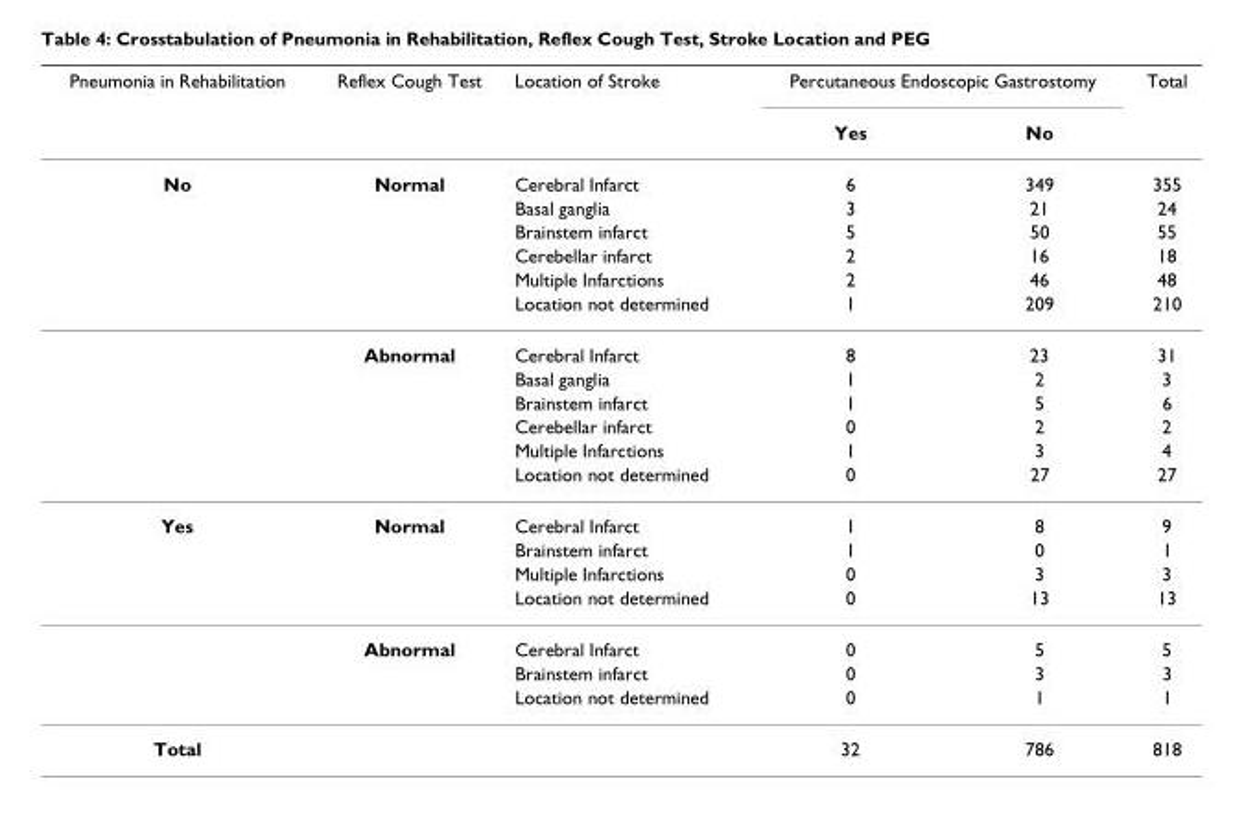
<table><thead><tr><td rowspan="2">Pneumonia in Rehabilitation</td><td rowspan="2">Reflex Cough Test</td><td rowspan="2">Location of Stroke</td><td colspan="2">Percutaneous Endoscopic Gastrostomy</td><td rowspan="2">Total</td></tr><tr><td>Yes</td><td>No</td></tr></thead><tbody><tr><td rowspan="12">No</td><td>Normal</td><td>Cerebral Infarct</td><td>6</td><td>349</td><td>355</td></tr><tr><td></td><td>Basal ganglia</td><td>3</td><td>21</td><td>24</td></tr><tr><td></td><td>Brainstem infarct</td><td>5</td><td>50</td><td>55</td></tr><tr><td></td><td>Cerebellar infarct</td><td>2</td><td>16</td><td>18</td></tr><tr><td></td><td>Multiple Infarctions</td><td>2</td><td>46</td><td>48</td></tr><tr><td></td><td>Location not determined</td><td>1</td><td>209</td><td>210</td></tr><tr><td>Abnormal</td><td>Cerebral Infarct</td><td>8</td><td>23</td><td>31</td></tr><tr><td></td><td>Basal ganglia</td><td>1</td><td>2</td><td>3</td></tr><tr><td></td><td>Brainstem infarct</td><td>1</td><td>5</td><td>6</td></tr><tr><td></td><td>Cerebellar infarct</td><td>0</td><td>2</td><td>2</td></tr><tr><td></td><td>Multiple Infarctions</td><td>1</td><td>3</td><td>4</td></tr><tr><td></td><td>Location not determined</td><td>0</td><td>27</td><td>27</td></tr><tr><td rowspan="7">Yes</td><td>Normal</td><td>Cerebral Infarct</td><td>1</td><td>8</td><td>9</td></tr><tr><td></td><td>Brainstem infarct</td><td>1</td><td>0</td><td>1</td></tr><tr><td></td><td>Multiple Infarctions</td><td>0</td><td>3</td><td>3</td></tr><tr><td></td><td>Location not determined</td><td>0</td><td>13</td><td>13</td></tr><tr><td>Abnormal</td><td>Cerebral Infarct</td><td>0</td><td>5</td><td>5</td></tr><tr><td></td><td>Brainstem infarct</td><td>0</td><td>3</td><td>3</td></tr><tr><td></td><td>Location not determined</td><td>0</td><td>1</td><td>1</td></tr><tr><td>Total</td><td></td><td></td><td>32</td><td>786</td><td>818</td></tr></tbody></table>